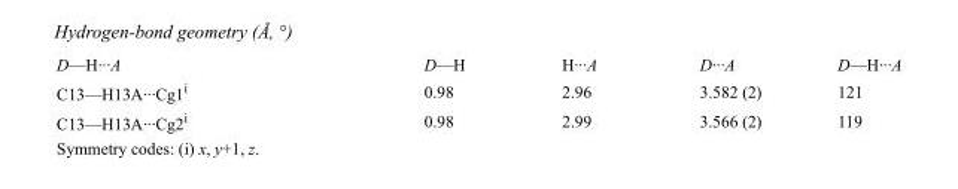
<table><tbody><tr><td>D—H···A</td><td>D—H</td><td>H···A</td><td>D···A</td><td>D—H···A</td></tr><tr><td>C13—H13A···Cg1<sup>i</sup></td><td>0.98</td><td>2.96</td><td>3.582 (2)</td><td>121</td></tr><tr><td>C13—H13A···Cg2<sup>i</sup></td><td>0.98</td><td>2.99</td><td>3.566 (2)</td><td>119</td></tr></tbody></table>